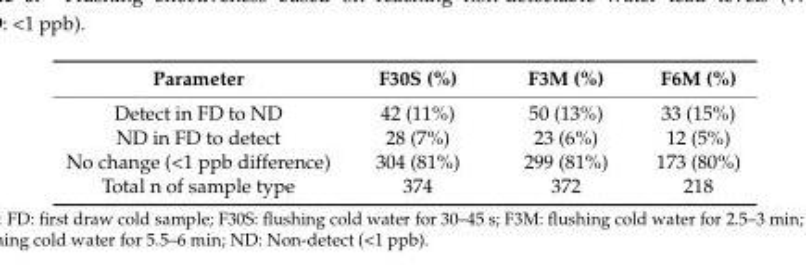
<table><thead><tr><td>Parameter</td><td>F30S (%)</td><td>F3M (%)</td><td>F6M (%)</td></tr></thead><tbody><tr><td>Detect in FD to ND</td><td>42 (11%)</td><td>50 (13%)</td><td>33 (15%)</td></tr><tr><td>ND in FD to detect</td><td>28 (7%)</td><td>23 (6%)</td><td>12 (5%)</td></tr><tr><td>No change (&lt;1 ppb difference)</td><td>304 (81%)</td><td>299 (81%)</td><td>173 (80%)</td></tr><tr><td>Total n of sample type</td><td>374</td><td>372</td><td>218</td></tr></tbody></table>